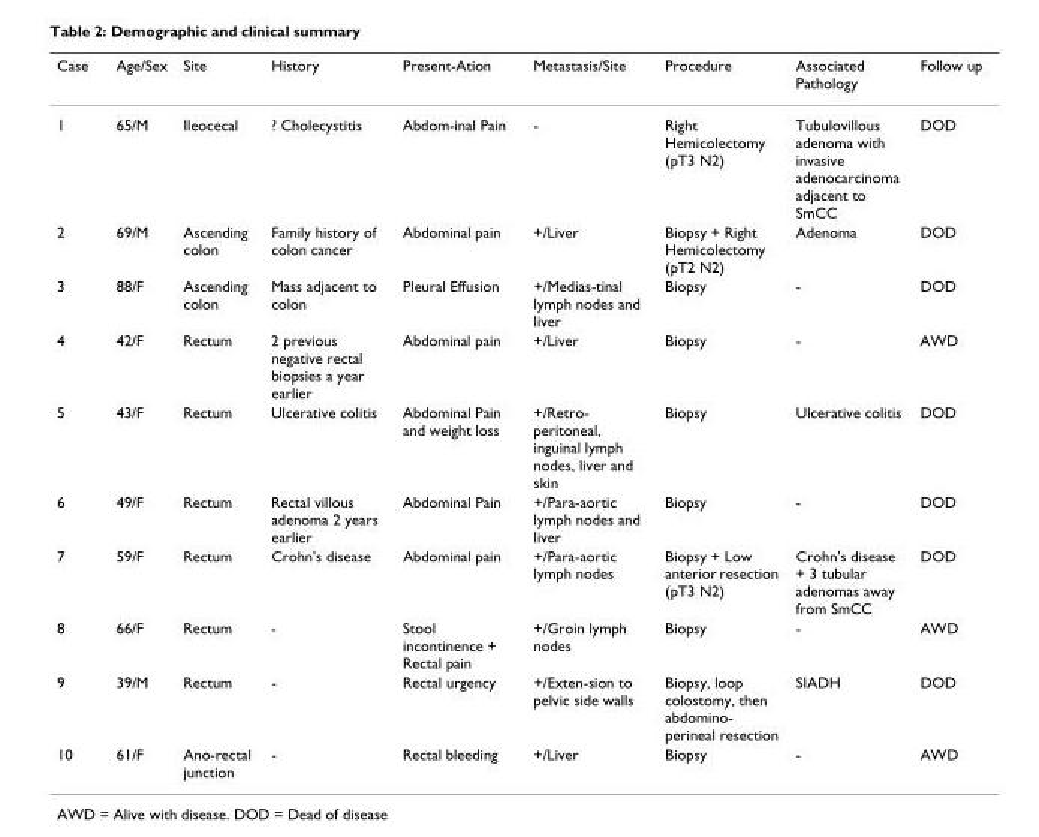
<table><thead><tr><td>Case</td><td>Age/Sex</td><td>Site</td><td>History</td><td>Present-Ation</td><td>Metastasis/Site</td><td>Procedure</td><td>Associated Pathology</td><td>Follow up</td></tr></thead><tbody><tr><td>1</td><td>65/M</td><td>Ileocecal</td><td>? Cholecystitis</td><td>Abdom-inal Pain</td><td>-</td><td>Right Hemicolectomy (pT3 N2)</td><td>Tubulovillous adenoma with invasive adenocarcinoma adjacent to SmCC</td><td>DOD</td></tr><tr><td>2</td><td>69/M</td><td>Ascending colon</td><td>Family history of colon cancer</td><td>Abdominal pain</td><td>+/Liver</td><td>Biopsy + Right Hemicolectomy (pT2 N2)</td><td>Adenoma</td><td>DOD</td></tr><tr><td>3</td><td>88/F</td><td>Ascending colon</td><td>Mass adjacent to colon</td><td>Pleural Effusion</td><td>+/Medias-tinal lymph nodes and liver</td><td>Biopsy</td><td>-</td><td>DOD</td></tr><tr><td>4</td><td>42/F</td><td>Rectum</td><td>2 previous negative rectal biopsies a year earlier</td><td>Abdominal pain</td><td>+/Liver</td><td>Biopsy</td><td>-</td><td>AWD</td></tr><tr><td>5</td><td>43/F</td><td>Rectum</td><td>Ulcerative colitis</td><td>Abdominal Pain and weight loss</td><td>+/Retro- peritoneal, inguinal lymph nodes, liver and skin</td><td>Biopsy</td><td>Ulcerative colitis</td><td>DOD</td></tr><tr><td>6</td><td>49/F</td><td>Rectum</td><td>Rectal villous adenoma 2 years earlier</td><td>Abdominal Pain</td><td>+/Para-aortic lymph nodes and liver</td><td>Biopsy</td><td>-</td><td>DOD</td></tr><tr><td>7</td><td>59/F</td><td>Rectum</td><td>Crohn&#x27;s disease</td><td>Abdominal pain</td><td>+/Para-aortic lymph nodes</td><td>Biopsy + Low anterior resection (pT3 N2)</td><td>Crohn&#x27;s disease + 3 tubular adenomas away from SmCC</td><td>DOD</td></tr><tr><td>8</td><td>66/F</td><td>Rectum</td><td>-</td><td>Stool incontinence + Rectal pain</td><td>+/Groin lymph nodes</td><td>Biopsy</td><td>-</td><td>AWD</td></tr><tr><td>9</td><td>39/M</td><td>Rectum</td><td>-</td><td>Rectal urgency</td><td>+/Exten-sion to pelvic side walls</td><td>Biopsy, loop colostomy, then abdomino- perineal resection</td><td>SIADH</td><td>DOD</td></tr><tr><td>10</td><td>61/F</td><td>Ano-rectal junction</td><td>-</td><td>Rectal bleeding</td><td>+/Liver</td><td>Biopsy</td><td>-</td><td>AWD</td></tr></tbody></table>